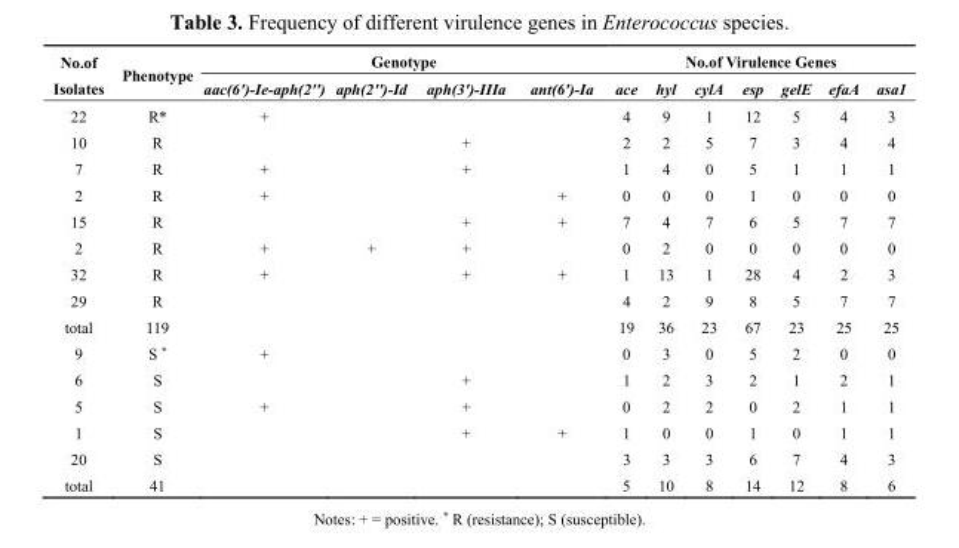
<table><thead><tr><td rowspan="2">No.of Isolates</td><td rowspan="2">Phenotype</td><td colspan="4">Genotype</td><td colspan="7">No.of Virulence Genes</td></tr><tr><td>aac(6&#x27;)-Ie-aph(2&#x27;&#x27;)</td><td>aph(2&#x27;&#x27;)-Id</td><td>aph(3&#x27;)-IIIa</td><td>ant(6&#x27;)-Ia</td><td>ace</td><td>hyl</td><td>cylA</td><td>esp</td><td>gelE</td><td>efaA</td><td>asa1</td></tr></thead><tbody><tr><td>22</td><td>R*</td><td>+</td><td></td><td></td><td></td><td>4</td><td>9</td><td>1</td><td>12</td><td>5</td><td>4</td><td>3</td></tr><tr><td>10</td><td>R</td><td></td><td></td><td>+</td><td></td><td>2</td><td>2</td><td>5</td><td>7</td><td>3</td><td>4</td><td>4</td></tr><tr><td>7</td><td>R</td><td>+</td><td></td><td>+</td><td></td><td>1</td><td>4</td><td>0</td><td>5</td><td>1</td><td>1</td><td>1</td></tr><tr><td>2</td><td>R</td><td>+</td><td></td><td></td><td>+</td><td>0</td><td>0</td><td>0</td><td>1</td><td>0</td><td>0</td><td>0</td></tr><tr><td>15</td><td>R</td><td></td><td></td><td>+</td><td>+</td><td>7</td><td>4</td><td>7</td><td>6</td><td>5</td><td>7</td><td>7</td></tr><tr><td>2</td><td>R</td><td>+</td><td>+</td><td>+</td><td></td><td>0</td><td>2</td><td>0</td><td>0</td><td>0</td><td>0</td><td>0</td></tr><tr><td>32</td><td>R</td><td>+</td><td></td><td>+</td><td>+</td><td>1</td><td>13</td><td>1</td><td>28</td><td>4</td><td>2</td><td>3</td></tr><tr><td>29</td><td>R</td><td></td><td></td><td></td><td></td><td>4</td><td>2</td><td>9</td><td>8</td><td>5</td><td>7</td><td>7</td></tr><tr><td>total</td><td>119</td><td></td><td></td><td></td><td></td><td>19</td><td>36</td><td>23</td><td>67</td><td>23</td><td>25</td><td>25</td></tr><tr><td>9</td><td>S *</td><td>+</td><td></td><td></td><td></td><td>0</td><td>3</td><td>0</td><td>5</td><td>2</td><td>0</td><td>0</td></tr><tr><td>6</td><td>S</td><td></td><td></td><td>+</td><td></td><td>1</td><td>2</td><td>3</td><td>2</td><td>1</td><td>2</td><td>1</td></tr><tr><td>5</td><td>S</td><td>+</td><td></td><td>+</td><td></td><td>0</td><td>2</td><td>2</td><td>0</td><td>2</td><td>1</td><td>1</td></tr><tr><td>1</td><td>S</td><td></td><td></td><td>+</td><td>+</td><td>1</td><td>0</td><td>0</td><td>1</td><td>0</td><td>1</td><td>1</td></tr><tr><td>20</td><td>S</td><td></td><td></td><td></td><td></td><td>3</td><td>3</td><td>3</td><td>6</td><td>7</td><td>4</td><td>3</td></tr><tr><td>total</td><td>41</td><td></td><td></td><td></td><td></td><td>5</td><td>10</td><td>8</td><td>14</td><td>12</td><td>8</td><td>6</td></tr></tbody></table>